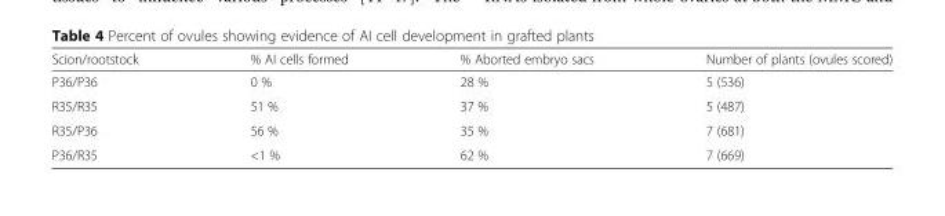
<table><thead><tr><td>Scion/rootstock</td><td>% AI cells formed</td><td>% Aborted embryo sacs</td><td>Number of plants (ovules scored)</td></tr></thead><tbody><tr><td>P36/P36</td><td>0 %</td><td>28 %</td><td>5 (536)</td></tr><tr><td>R35/R35</td><td>51 %</td><td>37 %</td><td>5 (487)</td></tr><tr><td>R35/P36</td><td>56 %</td><td>35 %</td><td>7 (681)</td></tr><tr><td>P36/R35</td><td>&lt;1 %</td><td>62 %</td><td>7 (669)</td></tr></tbody></table>